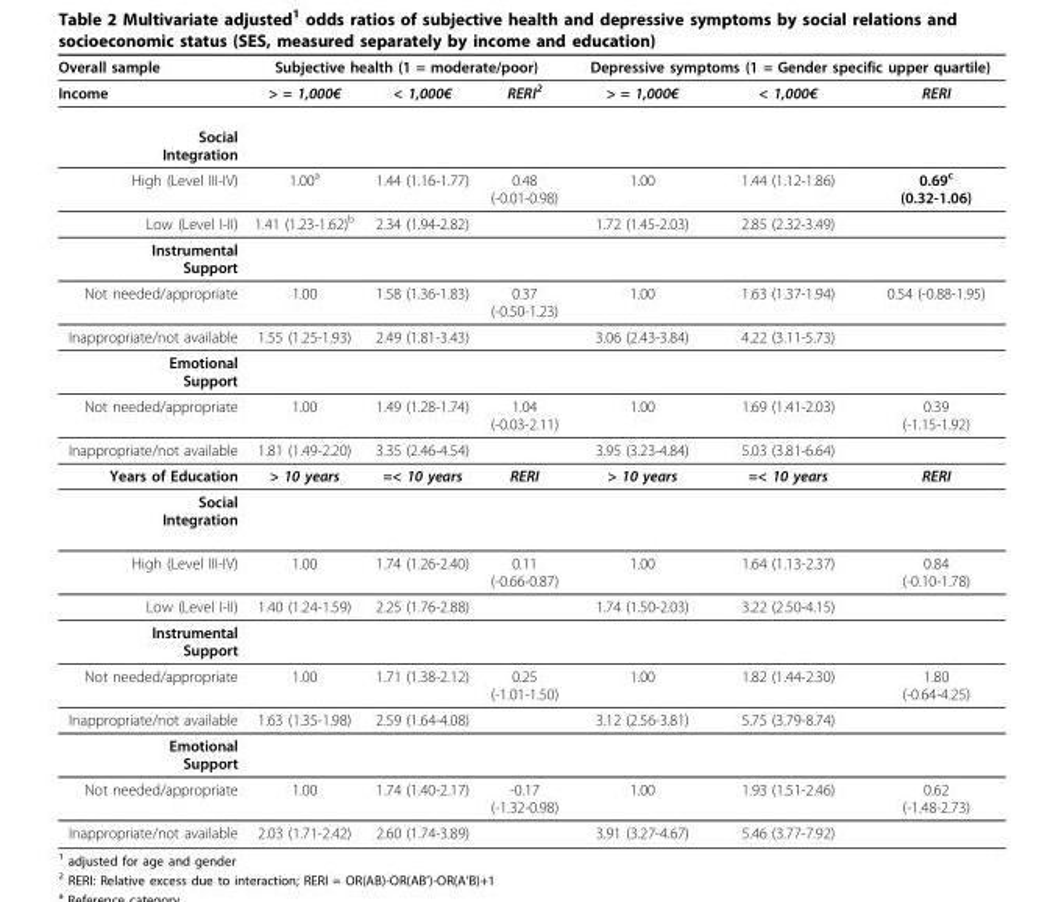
<table><thead><tr><td rowspan="2">Overall sample Income</td><td colspan="3">Subjective health (1 = moderate/poor)</td><td colspan="3">Depressive symptoms (1 = Gender specific upper quartile)</td></tr><tr><td>&gt; = 1,000€</td><td>&lt; 1,000€</td><td>RERI<sup>2</sup></td><td>&gt; = 1,000€</td><td>&lt; 1,000€</td><td>RERI</td></tr></thead><tbody><tr><td colspan="7">Social Integration</td></tr><tr><td>High (Level III-IV)</td><td>1.00<sup>a</sup></td><td>1.44 (1.16-1.77)</td><td>0.48 (-0.01-0.98)</td><td>1.00</td><td>1.44 (1.12-1.86)</td><td>0.69<sup>c</sup> (0.32-1.06)</td></tr><tr><td>Low (Level I-II)</td><td>1.41 (1.23-1.62)<sup>b</sup></td><td>2.34 (1.94-2.82)</td><td></td><td>1.72 (1.45-2.03)</td><td>2.85 (2.32-3.49)</td><td></td></tr><tr><td colspan="7">Instrumental Support</td></tr><tr><td>Not needed/appropriate</td><td>1.00</td><td>1.58 (1.36-1.83)</td><td>0.37 (-0.50-1.23)</td><td>1.00</td><td>1.63 (1.37-1.94)</td><td>0.54 (-0.88-1.95)</td></tr><tr><td>Inappropriate/not available</td><td>1.55 (1.25-1.93)</td><td>2.49 (1.81-3.43)</td><td></td><td>3.06 (2.43-3.84)</td><td>4.22 (3.11-5.73)</td><td></td></tr><tr><td colspan="7">Emotional Support</td></tr><tr><td>Not needed/appropriate</td><td>1.00</td><td>1.49 (1.28-1.74)</td><td>1.04 (-0.03-2.11)</td><td>1.00</td><td>1.69 (1.41-2.03)</td><td>0.39 (-1.15-1.92)</td></tr><tr><td>Inappropriate/not available</td><td>1.81 (1.49-2.20)</td><td>3.35 (2.46-4.54)</td><td></td><td>3.95 (3.23-4.84)</td><td>5.03 (3.81-6.64)</td><td></td></tr><tr><td>Years of Education</td><td>&gt; 10 years</td><td>=&lt; 10 years</td><td>RERI</td><td>&gt; 10 years</td><td>=&lt; 10 years</td><td>RERI</td></tr><tr><td colspan="7">Social Integration</td></tr><tr><td>High (Level III-IV)</td><td>1.00</td><td>1.74 (1.26-2.40)</td><td>0.11 (-0.66-0.87)</td><td>1.00</td><td>1.64 (1.13-2.37)</td><td>0.84 (-0.10-1.78)</td></tr><tr><td>Low (Level I-II)</td><td>1.40 (1.24-1.59)</td><td>2.25 (1.76-2.88)</td><td></td><td>1.74 (1.50-2.03)</td><td>3.22 (2.50-4.15)</td><td></td></tr><tr><td colspan="7">Instrumental Support</td></tr><tr><td>Not needed/appropriate</td><td>1.00</td><td>1.71 (1.38-2.12)</td><td>0.25 (-1.01-1.50)</td><td>1.00</td><td>1.82 (1.44-2.30)</td><td>1.80 (-0.64-4.25)</td></tr><tr><td>Inappropriate/not available</td><td>1.63 (1.35-1.98)</td><td>2.59 (1.64-4.08)</td><td></td><td>3.12 (2.56-3.81)</td><td>5.75 (3.79-8.74)</td><td></td></tr><tr><td colspan="7">Emotional Support</td></tr><tr><td>Not needed/appropriate</td><td>1.00</td><td>1.74 (1.40-2.17)</td><td>-0.17 (-1.32-0.98)</td><td>1.00</td><td>1.93 (1.51-2.46)</td><td>0.62 (-1.48-2.73)</td></tr><tr><td>Inappropriate/not available</td><td>2.03 (1.71-2.42)</td><td>2.60 (1.74-3.89)</td><td></td><td>3.91 (3.27-4.67)</td><td>5.46 (3.77-7.92)</td><td></td></tr></tbody></table>